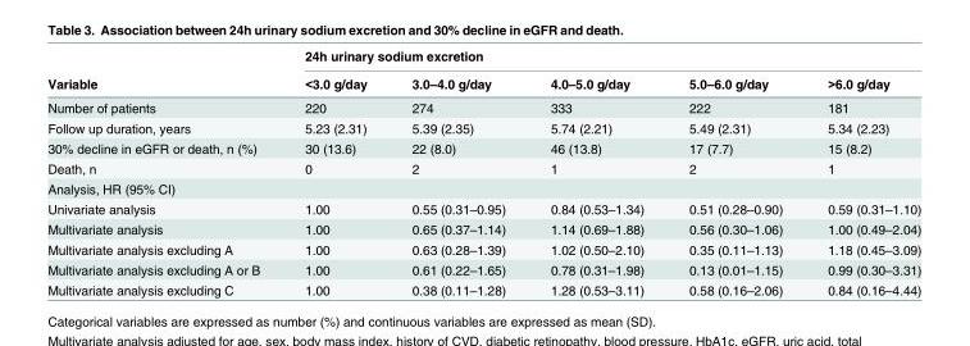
<table><thead><tr><td rowspan="2">Variable</td><td colspan="5">24h urinary sodium excretion</td></tr><tr><td>&lt;3.0 g/day</td><td>3.0–4.0 g/day</td><td>4.0–5.0 g/day</td><td>5.0–6.0 g/day</td><td>&gt;6.0 g/day</td></tr></thead><tbody><tr><td>Number of patients</td><td>220</td><td>274</td><td>333</td><td>222</td><td>181</td></tr><tr><td>Follow up duration, years</td><td>5.23 (2.31)</td><td>5.39 (2.35)</td><td>5.74 (2.21)</td><td>5.49 (2.31)</td><td>5.34 (2.23)</td></tr><tr><td>30% decline in eGFR or death, n (%)</td><td>30 (13.6)</td><td>22 (8.0)</td><td>46 (13.8)</td><td>17 (7.7)</td><td>15 (8.2)</td></tr><tr><td>Death, n</td><td>0</td><td>2</td><td>1</td><td>2</td><td>1</td></tr><tr><td colspan="6">Analysis, HR (95% CI)</td></tr><tr><td>Univariate analysis</td><td>1.00</td><td>0.55 (0.31–0.95)</td><td>0.84 (0.53–1.34)</td><td>0.51 (0.28–0.90)</td><td>0.59 (0.31–1.10)</td></tr><tr><td>Multivariate analysis</td><td>1.00</td><td>0.65 (0.37–1.14)</td><td>1.14 (0.69–1.88)</td><td>0.56 (0.30–1.06)</td><td>1.00 (0.49–2.04)</td></tr><tr><td>Multivariate analysis excluding A</td><td>1.00</td><td>0.63 (0.28–1.39)</td><td>1.02 (0.50–2.10)</td><td>0.35 (0.11–1.13)</td><td>1.18 (0.45–3.09)</td></tr><tr><td>Multivariate analysis excluding A or B</td><td>1.00</td><td>0.61 (0.22–1.65)</td><td>0.78 (0.31–1.98)</td><td>0.13 (0.01–1.15)</td><td>0.99 (0.30–3.31)</td></tr><tr><td>Multivariate analysis excluding C</td><td>1.00</td><td>0.38 (0.11–1.28)</td><td>1.28 (0.53–3.11)</td><td>0.58 (0.16–2.06)</td><td>0.84 (0.16–4.44)</td></tr></tbody></table>